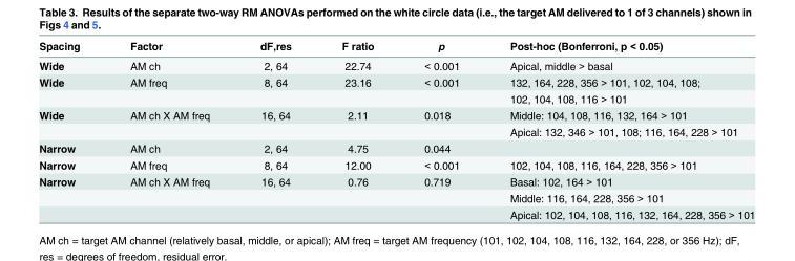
<table><thead><tr><td>Spacing</td><td>Factor</td><td>dF,res</td><td>F ratio</td><td>p</td><td>Post-hoc (Bonferroni, p &lt; 0.05)</td></tr></thead><tbody><tr><td>Wide</td><td>AM ch</td><td>2, 64</td><td>22.74</td><td>&lt; 0.001</td><td>Apical, middle &gt; basal</td></tr><tr><td rowspan="2">Wide</td><td>AM freq</td><td>8, 64</td><td>23.16</td><td>&lt; 0.001</td><td>132, 164, 228, 356 &gt; 101, 102, 104, 108;</td></tr><tr><td></td><td></td><td></td><td></td><td>102, 104, 108, 116 &gt; 101</td></tr><tr><td rowspan="2">Wide</td><td>AM ch X AM freq</td><td>16, 64</td><td>2.11</td><td>0.018</td><td>Middle: 104, 108, 116, 132, 164 &gt; 101</td></tr><tr><td></td><td></td><td></td><td></td><td>Apical: 132, 346 &gt; 101, 108; 116, 164, 228 &gt; 101</td></tr><tr><td>Narrow</td><td>AM ch</td><td>2, 64</td><td>4.75</td><td>0.044</td><td></td></tr><tr><td>Narrow</td><td>AM freq</td><td>8, 64</td><td>12.00</td><td>&lt; 0.001</td><td>102, 104, 108, 116, 164, 228, 356 &gt; 101</td></tr><tr><td rowspan="3">Narrow</td><td>AM ch X AM freq</td><td>16, 64</td><td>0.76</td><td>0.719</td><td>Basal: 102, 164 &gt; 101</td></tr><tr><td></td><td></td><td></td><td></td><td>Middle: 116, 164, 228, 356 &gt; 101</td></tr><tr><td></td><td></td><td></td><td></td><td>Apical: 102, 104, 108, 116, 132, 164, 228, 356 &gt; 101</td></tr></tbody></table>